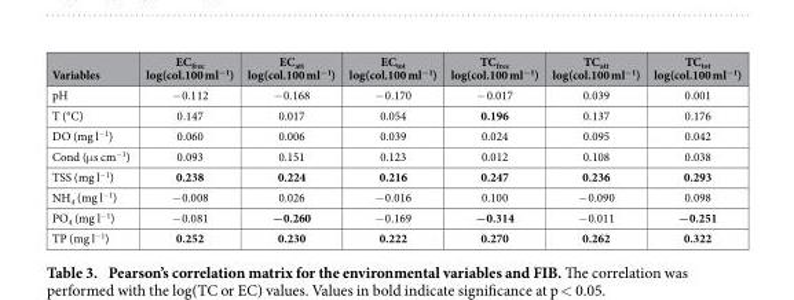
<table><thead><tr><td>Variables</td><td>EC<sub>free</sub> log(col.100 ml<sup>−1</sup>)</td><td>EC<sub>att</sub> log(col.100 ml<sup>−1</sup>)</td><td>EC<sub>tot</sub> log(col.100 ml<sup>−1</sup>)</td><td>TC<sub>free</sub> log(col.100 ml<sup>−1</sup>)</td><td>TC<sub>att</sub> log(col.100 ml<sup>−1</sup>)</td><td>TC<sub>tot</sub> log(col.100 ml<sup>−1</sup>)</td></tr></thead><tbody><tr><td>pH</td><td>− 0.112</td><td>− 0.168</td><td>− 0.170</td><td>− 0.017</td><td>0.039</td><td>0.001</td></tr><tr><td>T (°C)</td><td>0.147</td><td>0.017</td><td>0.054</td><td>0.196</td><td>0.137</td><td>0.176</td></tr><tr><td>DO (mg l<sup>−1</sup>)</td><td>0.060</td><td>0.006</td><td>0.039</td><td>0.024</td><td>0.095</td><td>0.042</td></tr><tr><td>Cond (μ s cm<sup>−1</sup>)</td><td>0.093</td><td>0.151</td><td>0.123</td><td>0.012</td><td>0.108</td><td>0.038</td></tr><tr><td>TSS (mg l<sup>−1</sup>)</td><td>0.238</td><td>0.224</td><td>0.216</td><td>0.247</td><td>0.236</td><td>0.293</td></tr><tr><td>NH<sub>4</sub> (mg l<sup>−1</sup>)</td><td>− 0.008</td><td>0.026</td><td>− 0.016</td><td>0.100</td><td>− 0.090</td><td>0.098</td></tr><tr><td>PO<sub>4</sub> (mg l<sup>−1</sup>)</td><td>− 0.081</td><td>−0.260</td><td>− 0.169</td><td>−0.314</td><td>− 0.011</td><td>−0.251</td></tr><tr><td>TP (mg l<sup>−1</sup>)</td><td>0.252</td><td>0.230</td><td>0.222</td><td>0.270</td><td>0.262</td><td>0.322</td></tr></tbody></table>